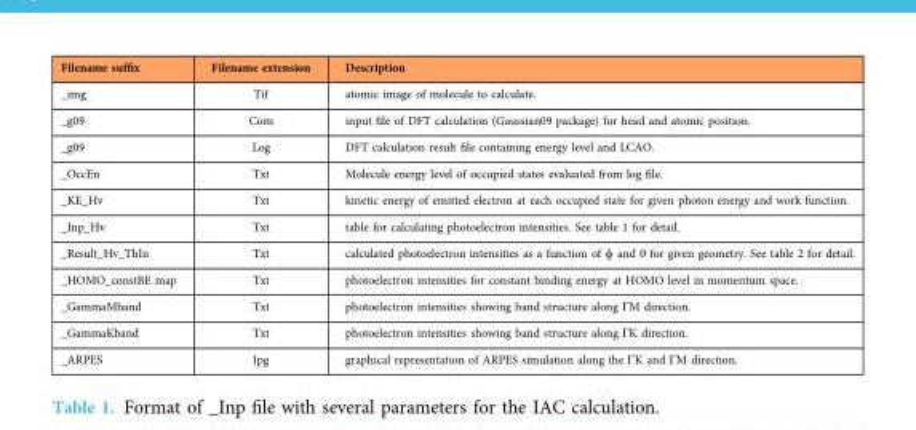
<table><thead><tr><td>Filename suffix</td><td>Filename extension</td><td>Description</td></tr></thead><tbody><tr><td>_img</td><td>Tif</td><td>atomic image of molecule to calculate.</td></tr><tr><td>_g09</td><td>Com</td><td>input file of DFT calculation (Gaussian09 package) for head and atomic position.</td></tr><tr><td>_g09</td><td>Log</td><td>DFT calculation result file containing energy level and LCAO.</td></tr><tr><td>_OccEn</td><td>Txt</td><td>Molecule energy level of occupied states evaluated from log file.</td></tr><tr><td>_KE_Hv</td><td>Txt</td><td>kinetic energy of emitted electron at each occupied state for given photon energy and work function.</td></tr><tr><td>_Inp_Hv</td><td>Txt</td><td>table for calculating photoelectron intensities. See table 1 for detail.</td></tr><tr><td>_Result_Hv_ThIn</td><td>Txt</td><td>calculated photoelectron intensities as a function of ɸ and θ for given geometry. See table 2 for detail.</td></tr><tr><td>_HOMO_constBE map</td><td>Txt</td><td>photoelectron intensities for constant binding energy at HOMO level in momentum space.</td></tr><tr><td>_GammaMband</td><td>Txt</td><td>photoelectron intensities showing band structure along ΓM direction.</td></tr><tr><td>_GammaKband</td><td>Txt</td><td>photoelectron intensities showing band structure along ΓK direction.</td></tr><tr><td>_ARPES</td><td>Jpg</td><td>graphical representation of ARPES simulation along the ΓK and ΓM direction.</td></tr></tbody></table>